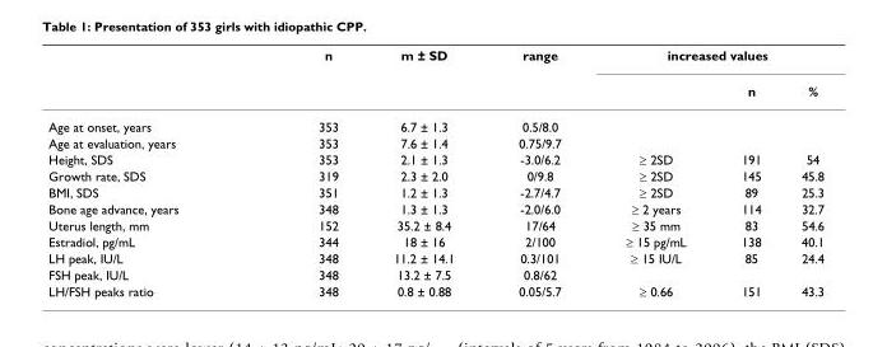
<table><thead><tr><td rowspan="2"></td><td rowspan="2">n</td><td rowspan="2">m ± SD</td><td rowspan="2">range</td><td colspan="3">increased values</td></tr><tr><td></td><td>n</td><td>%</td></tr></thead><tbody><tr><td>Age at onset, years</td><td>353</td><td>6.7 ± 1.3</td><td>0.5/8.0</td><td></td><td></td><td></td></tr><tr><td>Age at evaluation, years</td><td>353</td><td>7.6 ± 1.4</td><td>0.75/9.7</td><td></td><td></td><td></td></tr><tr><td>Height, SDS</td><td>353</td><td>2.1 ± 1.3</td><td>-3.0/6.2</td><td>≥ 2SD</td><td>191</td><td>54</td></tr><tr><td>Growth rate, SDS</td><td>319</td><td>2.3 ± 2.0</td><td>0/9.8</td><td>≥ 2SD</td><td>145</td><td>45.8</td></tr><tr><td>BMI, SDS</td><td>351</td><td>1.2 ± 1.3</td><td>-2.7/4.7</td><td>≥ 2SD</td><td>89</td><td>25.3</td></tr><tr><td>Bone age advance, years</td><td>348</td><td>1.3 ± 1.3</td><td>-2.0/6.0</td><td>≥ 2 years</td><td>114</td><td>32.7</td></tr><tr><td>Uterus length, mm</td><td>152</td><td>35.2 ± 8.4</td><td>17/64</td><td>≥ 35 mm</td><td>83</td><td>54.6</td></tr><tr><td>Estradiol, pg/mL</td><td>344</td><td>18 ± 16</td><td>2/100</td><td>≥ 15 pg/mL</td><td>138</td><td>40.1</td></tr><tr><td>LH peak, IU/L</td><td>348</td><td>11.2 ± 14.1</td><td>0.3/101</td><td>≥ 15 IU/L</td><td>85</td><td>24.4</td></tr><tr><td>FSH peak, IU/L</td><td>348</td><td>13.2 ± 7.5</td><td>0.8/62</td><td></td><td></td><td></td></tr><tr><td>LH/FSH peaks ratio</td><td>348</td><td>0.8 ± 0.88</td><td>0.05/5.7</td><td>≥ 0.66</td><td>151</td><td>43.3</td></tr></tbody></table>